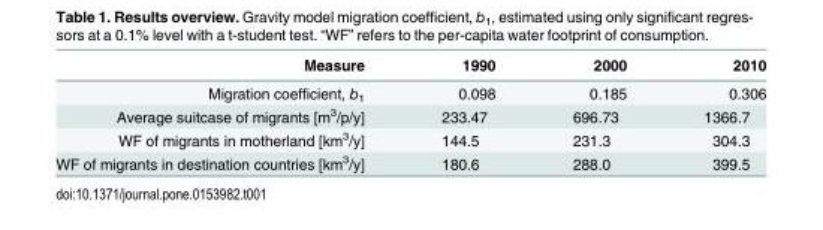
<table><thead><tr><td>Measure</td><td>1990</td><td>2000</td><td>2010</td></tr></thead><tbody><tr><td>Migration coefficient, b<sub>1</sub></td><td>0.098</td><td>0.185</td><td>0.306</td></tr><tr><td>Average suitcase of migrants [m<sup>3</sup>/p/y]</td><td>233.47</td><td>696.73</td><td>1366.7</td></tr><tr><td>WF of migrants in motherland [km<sup>3</sup>/y]</td><td>144.5</td><td>231.3</td><td>304.3</td></tr><tr><td>WF of migrants in destination countries [km<sup>3</sup>/y]</td><td>180.6</td><td>288.0</td><td>399.5</td></tr></tbody></table>